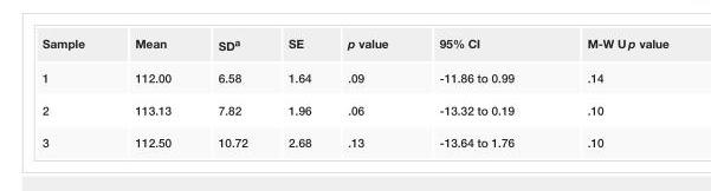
<table><tbody><tr><td>Sample</td><td>Mean</td><td>SD<sup>a</sup></td><td>SE</td><td>p value</td><td>95% CI</td><td>M-W U p value</td></tr><tr><td>1</td><td>112.00</td><td>6.58</td><td>1.64</td><td>.09</td><td>-11.86 to 0.99</td><td>.14</td></tr><tr><td>2</td><td>113.13</td><td>7.82</td><td>1.96</td><td>.06</td><td>-13.32 to 0.19</td><td>.10</td></tr><tr><td>3</td><td>112.50</td><td>10.72</td><td>2.68</td><td>.13</td><td>-13.64 to 1.76</td><td>.10</td></tr></tbody></table>